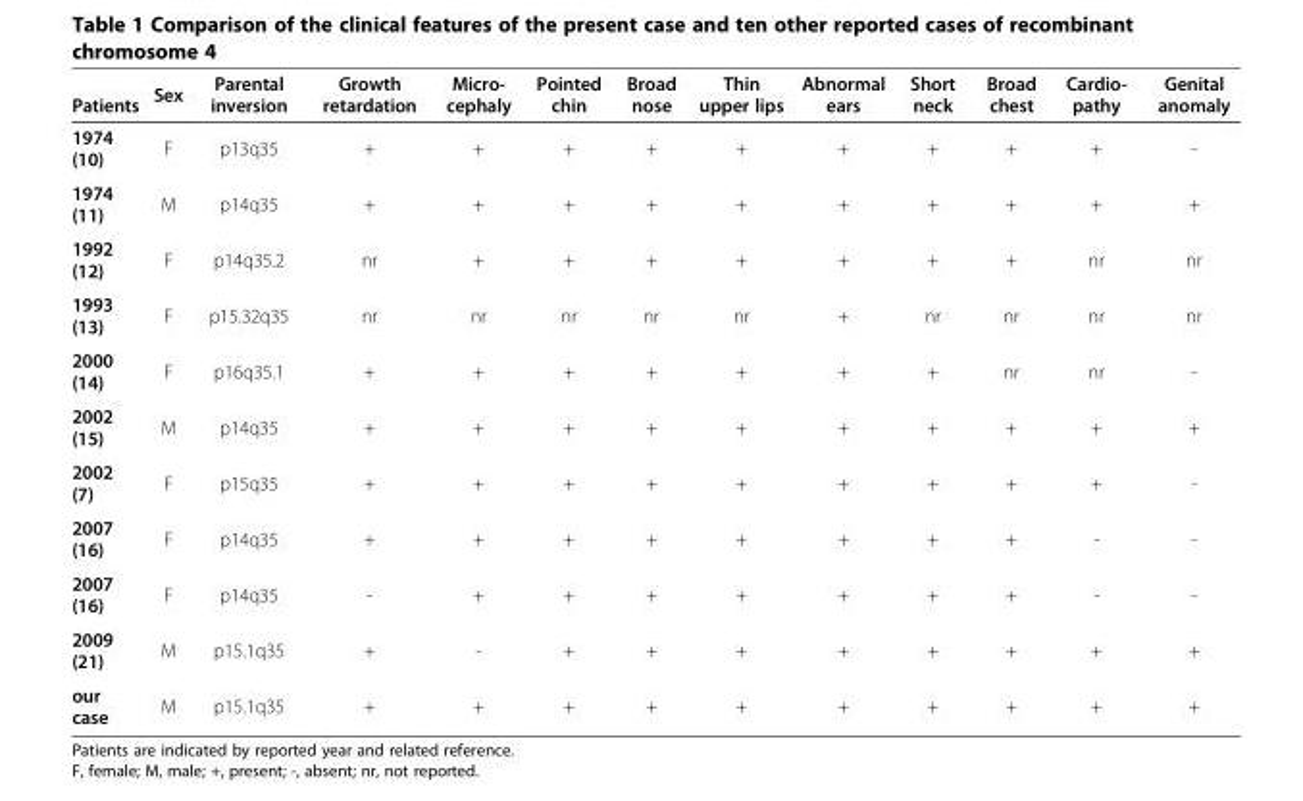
<table><thead><tr><td>Patients</td><td>Sex</td><td>Parental inversion</td><td>Growth retardation</td><td>Micro- cephaly</td><td>Pointed chin</td><td>Broad nose</td><td>Thin upper lips</td><td>Abnormal ears</td><td>Short neck</td><td>Broad chest</td><td>Cardio- pathy</td><td>Genital anomaly</td></tr></thead><tbody><tr><td>1974 (10)</td><td>F</td><td>p13q35</td><td>+</td><td>+</td><td>+</td><td>+</td><td>+</td><td>+</td><td>+</td><td>+</td><td>+</td><td>-</td></tr><tr><td>1974 (11)</td><td>M</td><td>p14q35</td><td>+</td><td>+</td><td>+</td><td>+</td><td>+</td><td>+</td><td>+</td><td>+</td><td>+</td><td>+</td></tr><tr><td>1992 (12)</td><td>F</td><td>p14q35.2</td><td>nr</td><td>+</td><td>+</td><td>+</td><td>+</td><td>+</td><td>+</td><td>+</td><td>nr</td><td>nr</td></tr><tr><td>1993 (13)</td><td>F</td><td>p15.32q35</td><td>nr</td><td>nr</td><td>nr</td><td>nr</td><td>nr</td><td>+</td><td>nr</td><td>nr</td><td>nr</td><td>nr</td></tr><tr><td>2000 (14)</td><td>F</td><td>p16q35.1</td><td>+</td><td>+</td><td>+</td><td>+</td><td>+</td><td>+</td><td>+</td><td>nr</td><td>nr</td><td>-</td></tr><tr><td>2002 (15)</td><td>M</td><td>p14q35</td><td>+</td><td>+</td><td>+</td><td>+</td><td>+</td><td>+</td><td>+</td><td>+</td><td>+</td><td>+</td></tr><tr><td>2002 (7)</td><td>F</td><td>p15q35</td><td>+</td><td>+</td><td>+</td><td>+</td><td>+</td><td>+</td><td>+</td><td>+</td><td>+</td><td>-</td></tr><tr><td>2007 (16)</td><td>F</td><td>p14q35</td><td>+</td><td>+</td><td>+</td><td>+</td><td>+</td><td>+</td><td>+</td><td>+</td><td>-</td><td>-</td></tr><tr><td>2007 (16)</td><td>F</td><td>p14q35</td><td>-</td><td>+</td><td>+</td><td>+</td><td>+</td><td>+</td><td>+</td><td>+</td><td>-</td><td>-</td></tr><tr><td>2009 (21)</td><td>M</td><td>p15.1q35</td><td>+</td><td>-</td><td>+</td><td>+</td><td>+</td><td>+</td><td>+</td><td>+</td><td>+</td><td>+</td></tr><tr><td>our case</td><td>M</td><td>p15.1q35</td><td>+</td><td>+</td><td>+</td><td>+</td><td>+</td><td>+</td><td>+</td><td>+</td><td>+</td><td>+</td></tr></tbody></table>